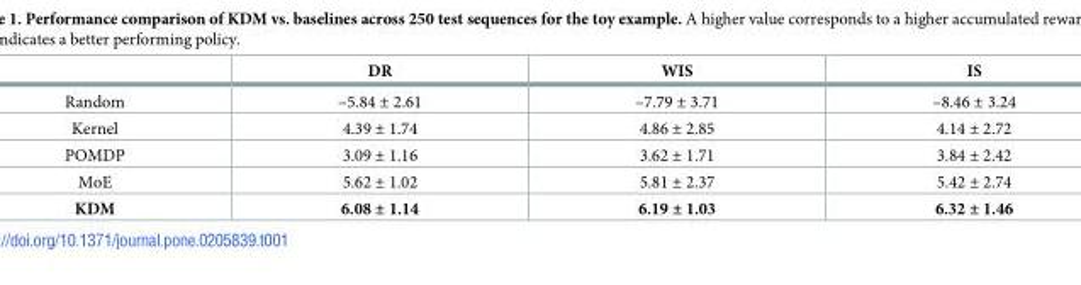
<table><thead><tr><td></td><td>DR</td><td>WIS</td><td>IS</td></tr></thead><tbody><tr><td>Random</td><td>–5.84 ± 2.61</td><td>–7.79 ± 3.71</td><td>–8.46 ± 3.24</td></tr><tr><td>Kernel</td><td>4.39 ± 1.74</td><td>4.86 ± 2.85</td><td>4.14 ± 2.72</td></tr><tr><td>POMDP</td><td>3.09 ± 1.16</td><td>3.62 ± 1.71</td><td>3.84 ± 2.42</td></tr><tr><td>MoE</td><td>5.62 ± 1.02</td><td>5.81 ± 2.37</td><td>5.42 ± 2.74</td></tr><tr><td>KDM</td><td>6.08 ± 1.14</td><td>6.19 ± 1.03</td><td>6.32 ± 1.46</td></tr></tbody></table>